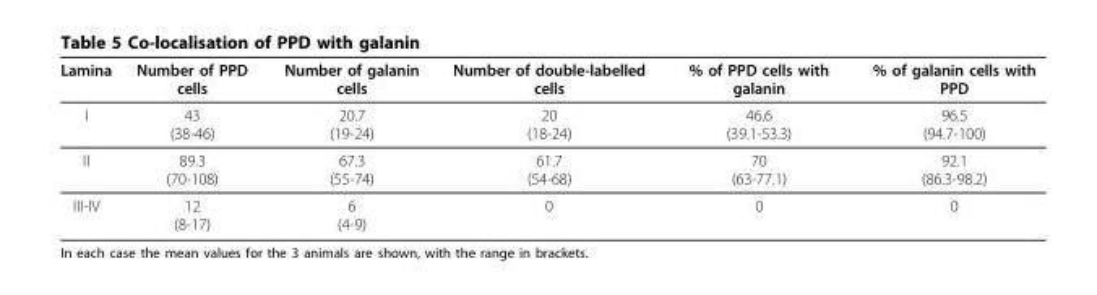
<table><thead><tr><td>Lamina</td><td>Number of PPD cells</td><td>Number of galanin cells</td><td>Number of double-labelled cells</td><td>% of PPD cells with galanin</td><td>% of galanin cells with PPD</td></tr></thead><tbody><tr><td>I</td><td>43 (38-46)</td><td>20.7 (19-24)</td><td>20 (18-24)</td><td>46.6 (39.1-53.3)</td><td>96.5 (94.7-100)</td></tr><tr><td>II</td><td>89.3 (70-108)</td><td>67.3 (55-74)</td><td>61.7 (54-68)</td><td>70 (63-77.1)</td><td>92.1 (86.3-98.2)</td></tr><tr><td>III-IV</td><td>12 (8-17)</td><td>6 (4-9)</td><td>0</td><td>0</td><td>0</td></tr></tbody></table>